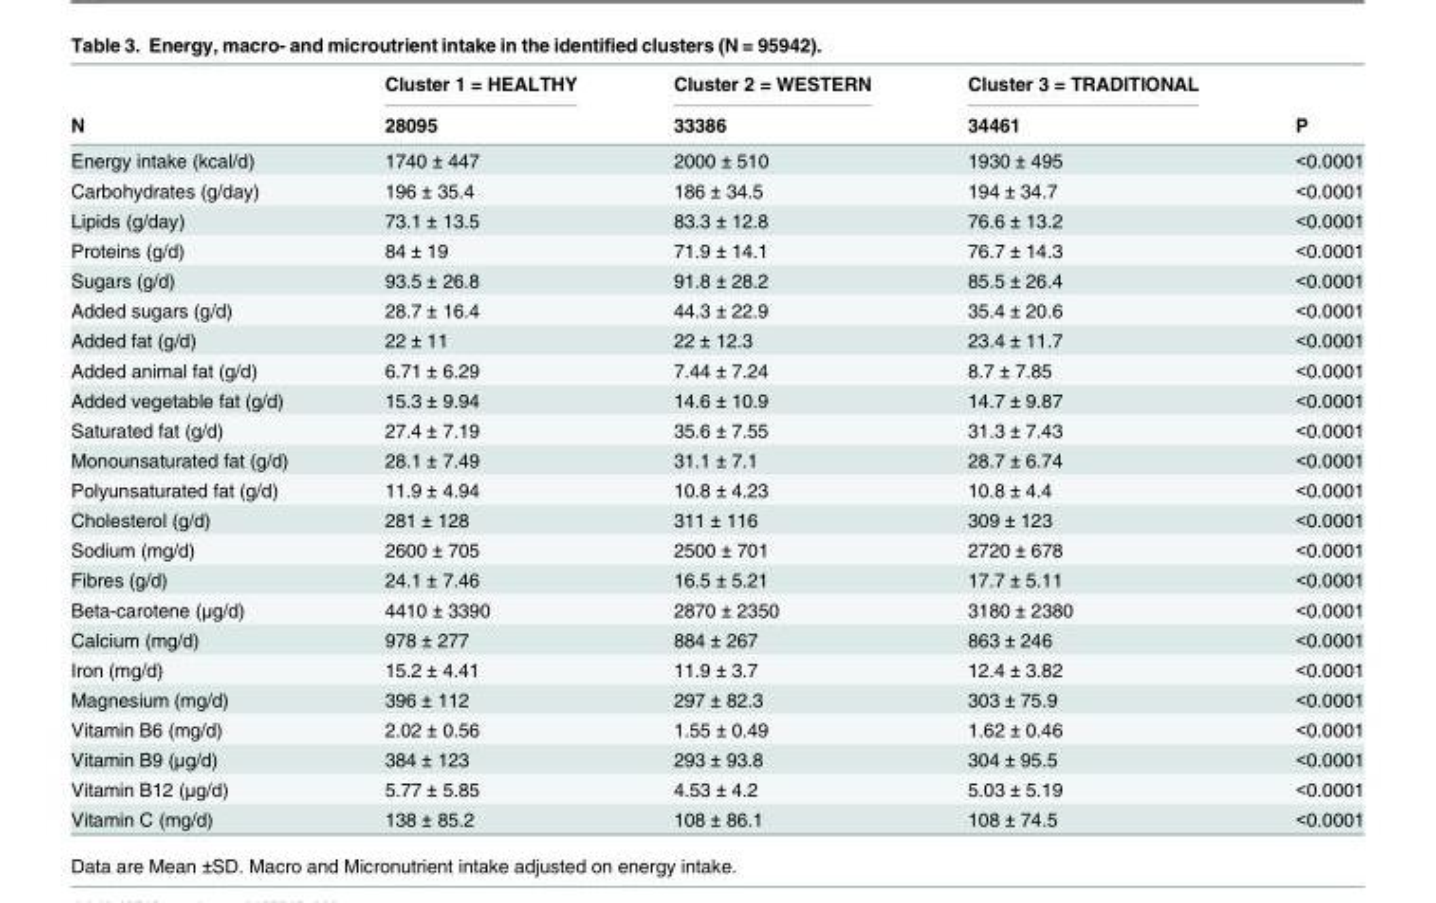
<table><thead><tr><td rowspan="2">N</td><td rowspan="2">Cluster 1 = HEALTHY 28095</td><td rowspan="2">Cluster 2 = WESTERN 33386</td><td rowspan="2">Cluster 3 = TRADITIONAL 34461</td><td rowspan="2">P</td></tr><tr></tr></thead><tbody><tr><td>Energy intake (kcal/d)</td><td>1740 ± 447</td><td>2000 ± 510</td><td>1930 ± 495</td><td>&lt;0.0001</td></tr><tr><td>Carbohydrates (g/day)</td><td>196 ± 35.4</td><td>186 ± 34.5</td><td>194 ± 34.7</td><td>&lt;0.0001</td></tr><tr><td>Lipids (g/day)</td><td>73.1 ± 13.5</td><td>83.3 ± 12.8</td><td>76.6 ± 13.2</td><td>&lt;0.0001</td></tr><tr><td>Proteins (g/d)</td><td>84 ± 19</td><td>71.9 ± 14.1</td><td>76.7 ± 14.3</td><td>&lt;0.0001</td></tr><tr><td>Sugars (g/d)</td><td>93.5 ± 26.8</td><td>91.8 ± 28.2</td><td>85.5 ± 26.4</td><td>&lt;0.0001</td></tr><tr><td>Added sugars (g/d)</td><td>28.7 ± 16.4</td><td>44.3 ± 22.9</td><td>35.4 ± 20.6</td><td>&lt;0.0001</td></tr><tr><td>Added fat (g/d)</td><td>22 ± 11</td><td>22 ± 12.3</td><td>23.4 ± 11.7</td><td>&lt;0.0001</td></tr><tr><td>Added animal fat (g/d)</td><td>6.71 ± 6.29</td><td>7.44 ± 7.24</td><td>8.7 ± 7.85</td><td>&lt;0.0001</td></tr><tr><td>Added vegetable fat (g/d)</td><td>15.3 ± 9.94</td><td>14.6 ± 10.9</td><td>14.7 ± 9.87</td><td>&lt;0.0001</td></tr><tr><td>Saturated fat (g/d)</td><td>27.4 ± 7.19</td><td>35.6 ± 7.55</td><td>31.3 ± 7.43</td><td>&lt;0.0001</td></tr><tr><td>Monounsaturated fat (g/d)</td><td>28.1 ± 7.49</td><td>31.1 ± 7.1</td><td>28.7 ± 6.74</td><td>&lt;0.0001</td></tr><tr><td>Polyunsaturated fat (g/d)</td><td>11.9 ± 4.94</td><td>10.8 ± 4.23</td><td>10.8 ± 4.4</td><td>&lt;0.0001</td></tr><tr><td>Cholesterol (g/d)</td><td>281 ± 128</td><td>311 ± 116</td><td>309 ± 123</td><td>&lt;0.0001</td></tr><tr><td>Sodium (mg/d)</td><td>2600 ± 705</td><td>2500 ± 701</td><td>2720 ± 678</td><td>&lt;0.0001</td></tr><tr><td>Fibres (g/d)</td><td>24.1 ± 7.46</td><td>16.5 ± 5.21</td><td>17.7 ± 5.11</td><td>&lt;0.0001</td></tr><tr><td>Beta-carotene (μg/d)</td><td>4410 ± 3390</td><td>2870 ± 2350</td><td>3180 ± 2380</td><td>&lt;0.0001</td></tr><tr><td>Calcium (mg/d)</td><td>978 ± 277</td><td>884 ± 267</td><td>863 ± 246</td><td>&lt;0.0001</td></tr><tr><td>Iron (mg/d)</td><td>15.2 ± 4.41</td><td>11.9 ± 3.7</td><td>12.4 ± 3.82</td><td>&lt;0.0001</td></tr><tr><td>Magnesium (mg/d)</td><td>396 ± 112</td><td>297 ± 82.3</td><td>303 ± 75.9</td><td>&lt;0.0001</td></tr><tr><td>Vitamin B6 (mg/d)</td><td>2.02 ± 0.56</td><td>1.55 ± 0.49</td><td>1.62 ± 0.46</td><td>&lt;0.0001</td></tr><tr><td>Vitamin B9 (μg/d)</td><td>384 ± 123</td><td>293 ± 93.8</td><td>304 ± 95.5</td><td>&lt;0.0001</td></tr><tr><td>Vitamin B12 (μg/d)</td><td>5.77 ± 5.85</td><td>4.53 ± 4.2</td><td>5.03 ± 5.19</td><td>&lt;0.0001</td></tr><tr><td>Vitamin C (mg/d)</td><td>138 ± 85.2</td><td>108 ± 86.1</td><td>108 ± 74.5</td><td>&lt;0.0001</td></tr></tbody></table>